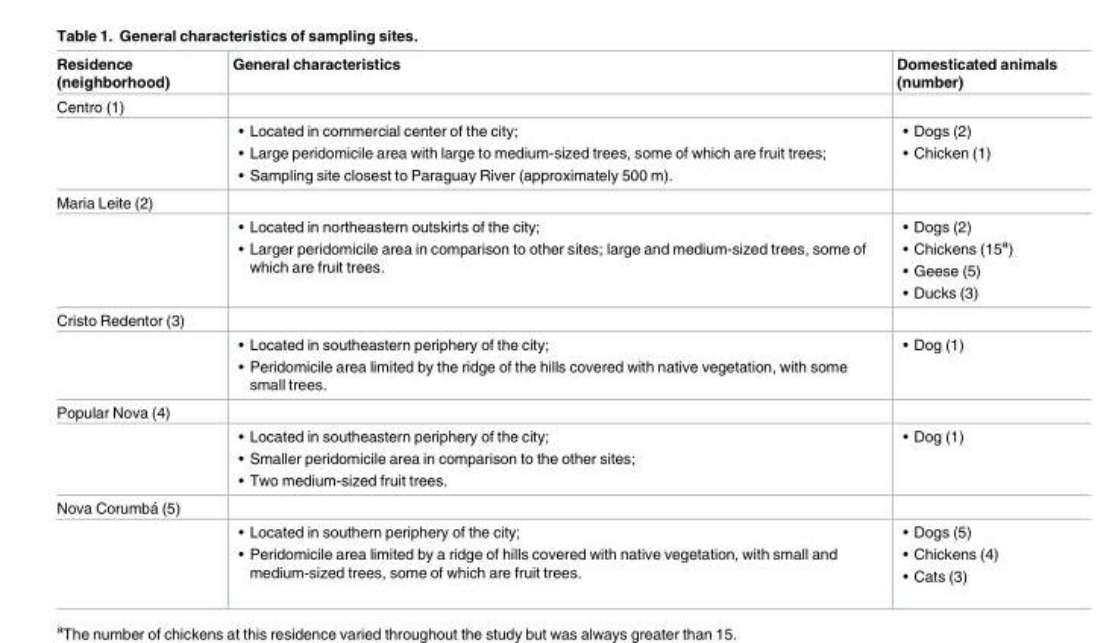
<table><thead><tr><td>Residence (neighborhood)</td><td>General characteristics</td><td>Domesticated animals (number)</td></tr></thead><tbody><tr><td colspan="3">Centro (1)</td></tr><tr><td></td><td>• Located in commercial center of the city; • Large peridomicile area with large to medium-sized trees, some of which are fruit trees; • Sampling site closest to Paraguay River (approximately 500 m).</td><td>• Dogs (2) • Chicken (1)</td></tr><tr><td colspan="3">Maria Leite (2)</td></tr><tr><td></td><td>• Located in northeastern outskirts of the city; • Larger peridomicile area in comparison to other sites; large and medium-sized trees, some of which are fruit trees.</td><td>• Dogs (2) • Chickens (15a) • Geese (5) • Ducks (3)</td></tr><tr><td colspan="3">Cristo Redentor (3)</td></tr><tr><td></td><td>• Located in southeastern periphery of the city; • Peridomicile area limited by the ridge of the hills covered with native vegetation, with some small trees.</td><td>• Dog (1)</td></tr><tr><td colspan="3">Popular Nova (4)</td></tr><tr><td></td><td>• Located in southeastern periphery of the city; • Smaller peridomicile area in comparison to the other sites; • Two medium-sized fruit trees.</td><td>• Dog (1)</td></tr><tr><td colspan="3">Nova Corumba´ (5)</td></tr><tr><td></td><td>• Located in southern periphery of the city; • Peridomicile area limited by a ridge of hills covered with native vegetation, with small and medium-sized trees, some of which are fruit trees.</td><td>• Dogs (5) • Chickens (4) • Cats (3)</td></tr></tbody></table>